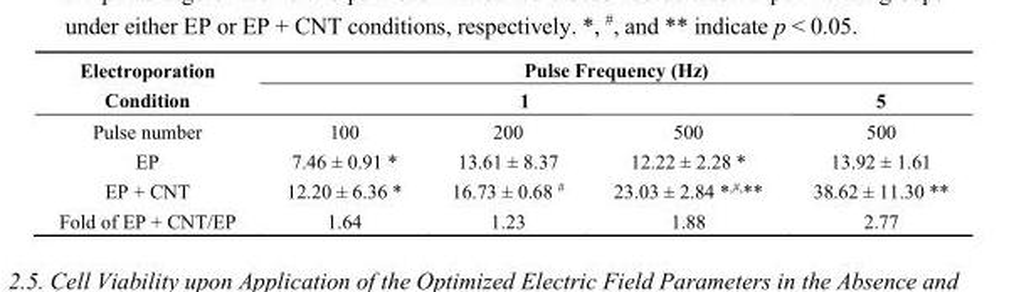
<table><thead><tr><td rowspan="3">Electroporation Condition Pulse number</td><td colspan="4">Pulse Frequency (Hz)</td></tr><tr><td colspan="3">1</td><td rowspan="2">5 500</td></tr><tr><td>100</td><td>200</td><td>500</td></tr></thead><tbody><tr><td>EP</td><td>7.46 ± 0.91 *</td><td>13.61 ± 8.37</td><td>12.22 ± 2.28 *</td><td>13.92 ± 1.61</td></tr><tr><td>EP + CNT</td><td>12.20 ± 6.36 *</td><td>16.73 ± 0.68 <sup>#</sup></td><td>23.03 ± 2.84 *<sup>,#,</sup>**</td><td>38.62 ± 11.30 **</td></tr><tr><td>Fold of EP + CNT/EP</td><td>1.64</td><td>1.23</td><td>1.88</td><td>2.77</td></tr></tbody></table>